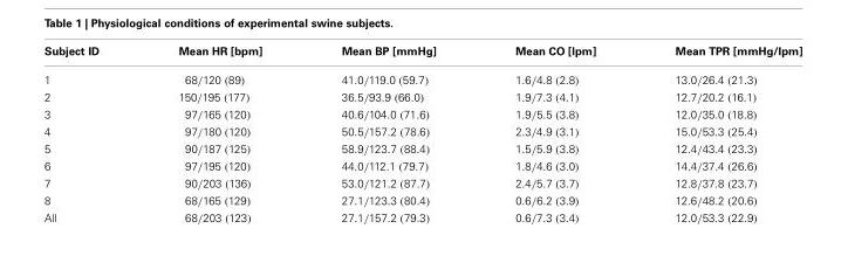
<table><thead><tr><td>Subject ID</td><td>Mean HR [bpm]</td><td>Mean BP [mmHg]</td><td>Mean CO [lpm]</td><td>Mean TPR [mmHg/lpm]</td></tr></thead><tbody><tr><td>1</td><td>68/120 (89)</td><td>41.0/119.0 (59.7)</td><td>1.6/4.8 (2.8)</td><td>13.0/26.4 (21.3)</td></tr><tr><td>2</td><td>150/195 (177)</td><td>36.5/93.9 (66.0)</td><td>1.9/7.3 (4.1)</td><td>12.7/20.2 (16.1)</td></tr><tr><td>3</td><td>97/165 (120)</td><td>40.6/104.0 (71.6)</td><td>1.9/5.5 (3.8)</td><td>12.0/35.0 (18.8)</td></tr><tr><td>4</td><td>97/180 (120)</td><td>50.5/157.2 (78.6)</td><td>2.3/4.9 (3.1)</td><td>15.0/53.3 (25.4)</td></tr><tr><td>5</td><td>90/187 (125)</td><td>58.9/123.7 (88.4)</td><td>1.5/5.9 (3.8)</td><td>12.4/43.4 (23.3)</td></tr><tr><td>6</td><td>97/195 (120)</td><td>44.0/112.1 (79.7)</td><td>1.8/4.6 (3.0)</td><td>14.4/37.4 (26.6)</td></tr><tr><td>7</td><td>90/203 (136)</td><td>53.0/121.2 (87.7)</td><td>2.4/5.7 (3.7)</td><td>12.8/37.8 (23.7)</td></tr><tr><td>8</td><td>68/165 (129)</td><td>27.1/123.3 (80.4)</td><td>0.6/6.2 (3.9)</td><td>12.6/48.2 (20.6)</td></tr><tr><td>All</td><td>68/203 (123)</td><td>27.1/157.2 (79.3)</td><td>0.6/7.3 (3.4)</td><td>12.0/53.3 (22.9)</td></tr></tbody></table>